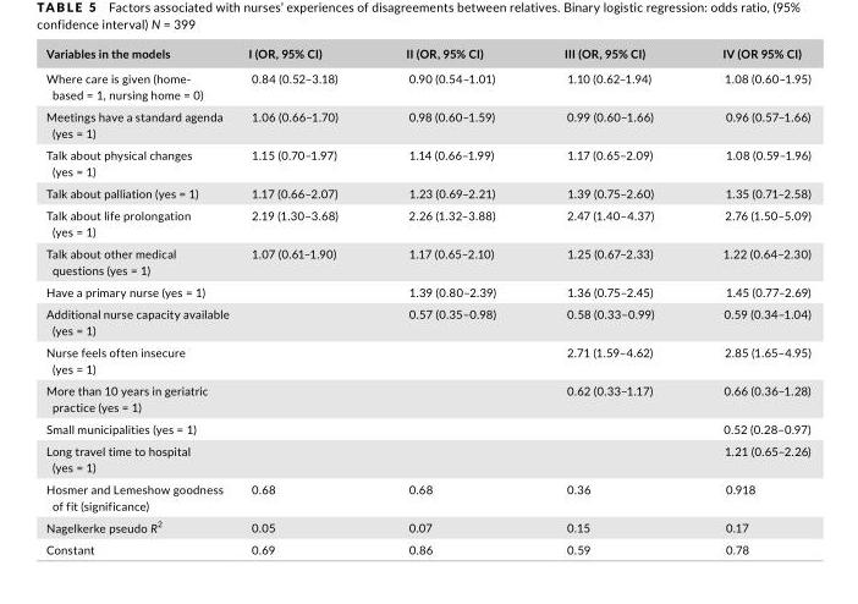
<table><thead><tr><td>Variables in the models</td><td>I (OR, 95% CI)</td><td>II (OR, 95% CI)</td><td>III (OR, 95% CI)</td><td>IV (OR 95% CI)</td></tr></thead><tbody><tr><td>Where care is given (home- based = 1, nursing home = 0)</td><td>0.84 (0.52–3.18)</td><td>0.90 (0.54–1.01)</td><td>1.10 (0.62–1.94)</td><td>1.08 (0.60–1.95)</td></tr><tr><td>Meetings have a standard agenda (yes = 1)</td><td>1.06 (0.66–1.70)</td><td>0.98 (0.60–1.59)</td><td>0.99 (0.60–1.66)</td><td>0.96 (0.57–1.66)</td></tr><tr><td>Talk about physical changes (yes = 1)</td><td>1.15 (0.70–1.97)</td><td>1.14 (0.66–1.99)</td><td>1.17 (0.65–2.09)</td><td>1.08 (0.59–1.96)</td></tr><tr><td>Talk about palliation (yes = 1)</td><td>1.17 (0.66–2.07)</td><td>1.23 (0.69–2.21)</td><td>1.39 (0.75–2.60)</td><td>1.35 (0.71–2.58)</td></tr><tr><td>Talk about life prolongation (yes = 1)</td><td>2.19 (1.30–3.68)</td><td>2.26 (1.32–3.88)</td><td>2.47 (1.40–4.37)</td><td>2.76 (1.50–5.09)</td></tr><tr><td>Talk about other medical questions (yes = 1)</td><td>1.07 (0.61–1.90)</td><td>1.17 (0.65–2.10)</td><td>1.25 (0.67–2.33)</td><td>1.22 (0.64–2.30)</td></tr><tr><td>Have a primary nurse (yes = 1)</td><td></td><td>1.39 (0.80–2.39)</td><td>1.36 (0.75–2.45)</td><td>1.45 (0.77–2.69)</td></tr><tr><td>Additional nurse capacity available (yes = 1)</td><td></td><td>0.57 (0.35–0.98)</td><td>0.58 (0.33–0.99)</td><td>0.59 (0.34–1.04)</td></tr><tr><td>Nurse feels often insecure (yes = 1)</td><td></td><td></td><td>2.71 (1.59–4.62)</td><td>2.85 (1.65–4.95)</td></tr><tr><td>More than 10 years in geriatric practice (yes = 1)</td><td></td><td></td><td>0.62 (0.33–1.17)</td><td>0.66 (0.36–1.28)</td></tr><tr><td>Small municipalities (yes = 1)</td><td></td><td></td><td></td><td>0.52 (0.28–0.97)</td></tr><tr><td>Long travel time to hospital (yes = 1)</td><td></td><td></td><td></td><td>1.21 (0.65–2.26)</td></tr><tr><td>Hosmer and Lemeshow goodness of fit (significance)</td><td>0.68</td><td>0.68</td><td>0.36</td><td>0.918</td></tr><tr><td>Nagelkerke pseudo R<sup>2</sup></td><td>0.05</td><td>0.07</td><td>0.15</td><td>0.17</td></tr><tr><td>Constant</td><td>0.69</td><td>0.86</td><td>0.59</td><td>0.78</td></tr></tbody></table>